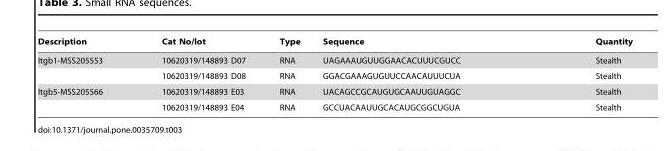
<table><thead><tr><td>Description</td><td>Cat No/lot</td><td>Type</td><td>Sequence</td><td>Quantity</td></tr></thead><tbody><tr><td rowspan="2">Itgb1-MSS205553</td><td>10620319/148893 D07</td><td>RNA</td><td>UAGAAAUGUUGGAACACUUUCGUCC</td><td>Stealth</td></tr><tr><td>10620319/148893 D08</td><td>RNA</td><td>GGACGAAAGUGUUCCAACAUUUCUA</td><td>Stealth</td></tr><tr><td rowspan="2">Itgb5-MSS205566</td><td>10620319/148893 E03</td><td>RNA</td><td>UACAGCCGCAUGUGCAAUUGUAGGC</td><td>Stealth</td></tr><tr><td>10620319/148893 E04</td><td>RNA</td><td>GCCUACAAUUGCACAUGCGGCUGUA</td><td>Stealth</td></tr></tbody></table>